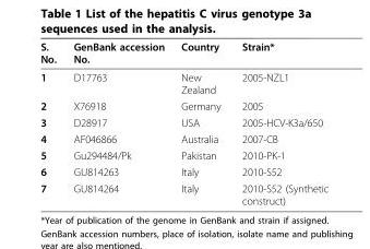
<table><thead><tr><td>S. No.</td><td>GenBank accession No.</td><td>Country</td><td>Strain*</td></tr></thead><tbody><tr><td>1</td><td>D17763</td><td>New Zealand</td><td>2005-NZL1</td></tr><tr><td>2</td><td>X76918</td><td>Germany</td><td>2005</td></tr><tr><td>3</td><td>D28917</td><td>USA</td><td>2005-HCV-K3a/650</td></tr><tr><td>4</td><td>AF046866</td><td>Australia</td><td>2007-CB</td></tr><tr><td>5</td><td>Gu294484/Pk</td><td>Pakistan</td><td>2010-PK-1</td></tr><tr><td>6</td><td>GU814263</td><td>Italy</td><td>2010-S52</td></tr><tr><td>7</td><td>GU814264</td><td>Italy</td><td>2010-S52 (Synthetic construct)</td></tr></tbody></table>